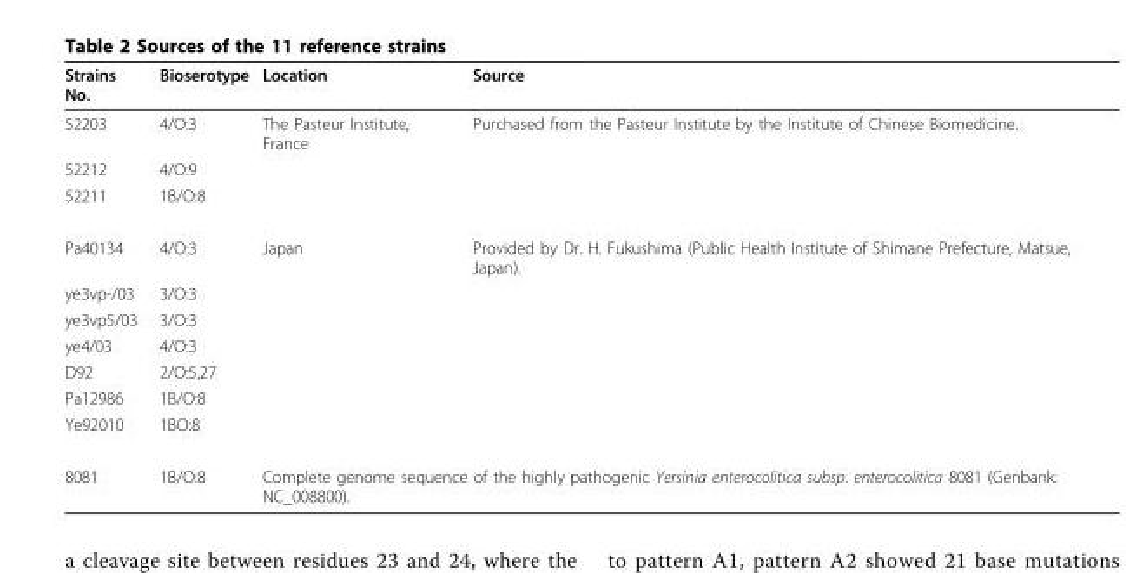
<table><thead><tr><td>Strains No.</td><td>Bioserotype</td><td>Location</td><td>Source</td></tr></thead><tbody><tr><td>52203</td><td>4/O:3</td><td>The Pasteur Institute, France</td><td>Purchased from the Pasteur Institute by the Institute of Chinese Biomedicine.</td></tr><tr><td>52212</td><td>4/O:9</td><td></td><td></td></tr><tr><td>52211</td><td>1B/O:8</td><td></td><td></td></tr><tr><td>Pa40134</td><td>4/O:3</td><td>Japan</td><td>Provided by Dr. H. Fukushima (Public Health Institute of Shimane Prefecture, Matsue, Japan).</td></tr><tr><td>ye3vp-/03</td><td>3/O:3</td><td></td><td></td></tr><tr><td>ye3vp5/03</td><td>3/O:3</td><td></td><td></td></tr><tr><td>ye4/03</td><td>4/O:3</td><td></td><td></td></tr><tr><td>D92</td><td>2/O:5,27</td><td></td><td></td></tr><tr><td>Pa12986</td><td>1B/O:8</td><td></td><td></td></tr><tr><td>Ye92010</td><td>1BO:8</td><td></td><td></td></tr><tr><td>8081</td><td>1B/O:8</td><td colspan="2">Complete genome sequence of the highly pathogenic Yersinia enterocolitica subsp. enterocolitica 8081 (Genbank: NC_008800).</td></tr></tbody></table>